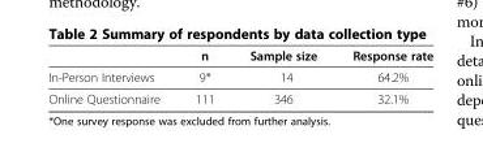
<table><thead><tr><td></td><td>n</td><td>Sample size</td><td>Response rate</td></tr></thead><tbody><tr><td>In-Person Interviews</td><td>9*</td><td>14</td><td>64.2%</td></tr><tr><td>Online Questionnaire</td><td>111</td><td>346</td><td>32.1%</td></tr></tbody></table>